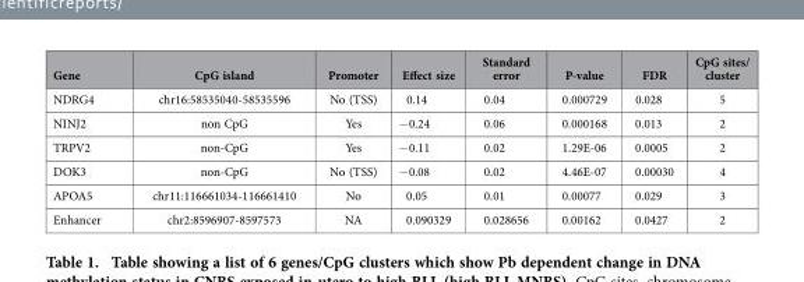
<table><thead><tr><td>Gene</td><td>CpG island</td><td>Promoter</td><td>Effect size</td><td>Standard error</td><td>P-value</td><td>FDR</td><td>CpG sites/ cluster</td></tr></thead><tbody><tr><td>NDRG4</td><td>chr16:58535040-58535596</td><td>No (TSS)</td><td>0.14</td><td>0.04</td><td>0.000729</td><td>0.028</td><td>5</td></tr><tr><td>NINJ2</td><td>non CpG</td><td>Yes</td><td>− 0.24</td><td>0.06</td><td>0.000168</td><td>0.013</td><td>2</td></tr><tr><td>TRPV2</td><td>non-CpG</td><td>Yes</td><td>− 0.11</td><td>0.02</td><td>1.29E-06</td><td>0.0005</td><td>2</td></tr><tr><td>DOK3</td><td>non-CpG</td><td>No (TSS)</td><td>− 0.08</td><td>0.02</td><td>4.46E-07</td><td>0.00030</td><td>4</td></tr><tr><td>APOA5</td><td>chr11:116661034-116661410</td><td>No</td><td>0.05</td><td>0.01</td><td>0.00077</td><td>0.029</td><td>3</td></tr><tr><td>Enhancer</td><td>chr2:8596907-8597573</td><td>NA</td><td>0.090329</td><td>0.028656</td><td>0.00162</td><td>0.0427</td><td>2</td></tr></tbody></table>